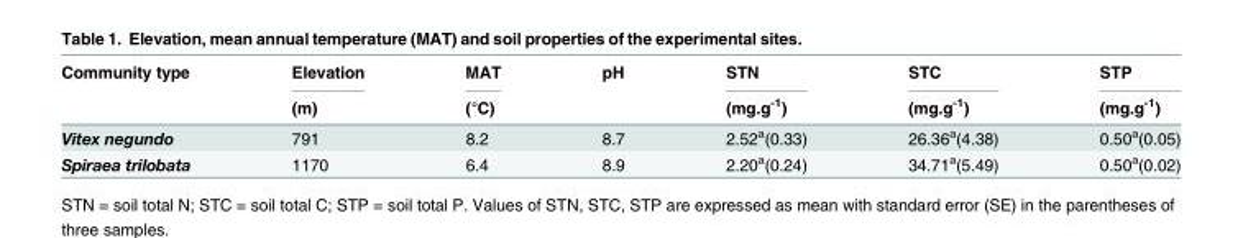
<table><thead><tr><td rowspan="2">Community type</td><td rowspan="2">Elevation (m)</td><td rowspan="2">MAT (°C)</td><td rowspan="2">pH</td><td rowspan="2">STN (mg.g<sup>-1</sup>)</td><td rowspan="2">STC (mg.g<sup>-1</sup>)</td><td rowspan="2">STP (mg.g<sup>-1</sup>)</td></tr><tr></tr></thead><tbody><tr><td>Vitex negundo</td><td>791</td><td>8.2</td><td>8.7</td><td>2.52<sup>a</sup>(0.33)</td><td>26.36<sup>a</sup>(4.38)</td><td>0.50<sup>a</sup>(0.05)</td></tr><tr><td>Spiraea trilobata</td><td>1170</td><td>6.4</td><td>8.9</td><td>2.20<sup>a</sup>(0.24)</td><td>34.71<sup>a</sup>(5.49)</td><td>0.50<sup>a</sup>(0.02)</td></tr></tbody></table>